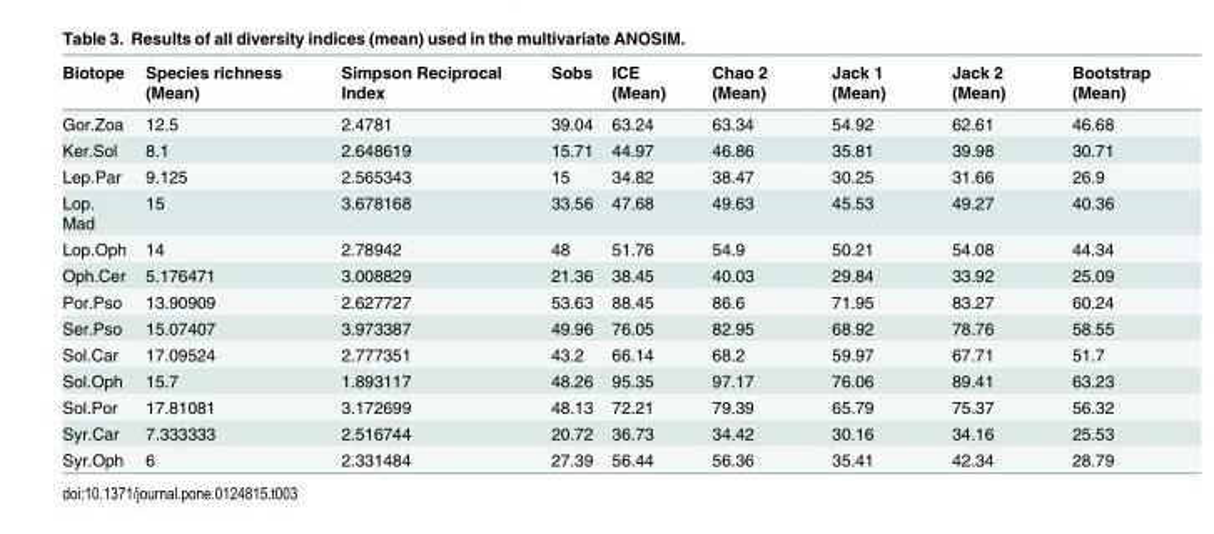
<table><thead><tr><td>Biotope</td><td>Species richness (Mean)</td><td>Simpson Reciprocal Index</td><td>Sobs</td><td>ICE (Mean)</td><td>Chao 2 (Mean)</td><td>Jack 1 (Mean)</td><td>Jack 2 (Mean)</td><td>Bootstrap (Mean)</td></tr></thead><tbody><tr><td>Gor.Zoa</td><td>12.5</td><td>2.4781</td><td>39.04</td><td>63.24</td><td>63.34</td><td>54.92</td><td>62.61</td><td>46.68</td></tr><tr><td>Ker.Sol</td><td>8.1</td><td>2.648619</td><td>15.71</td><td>44.97</td><td>46.86</td><td>35.81</td><td>39.98</td><td>30.71</td></tr><tr><td>Lep.Par</td><td>9.125</td><td>2.565343</td><td>15</td><td>34.82</td><td>38.47</td><td>30.25</td><td>31.66</td><td>26.9</td></tr><tr><td>Lop. Mad</td><td>15</td><td>3.678168</td><td>33.56</td><td>47.68</td><td>49.63</td><td>45.53</td><td>49.27</td><td>40.36</td></tr><tr><td>Lop.Oph</td><td>14</td><td>2.78942</td><td>48</td><td>51.76</td><td>54.9</td><td>50.21</td><td>54.08</td><td>44.34</td></tr><tr><td>Oph.Cer</td><td>5.176471</td><td>3.008829</td><td>21.36</td><td>38.45</td><td>40.03</td><td>29.84</td><td>33.92</td><td>25.09</td></tr><tr><td>Por.Pso</td><td>13.90909</td><td>2.627727</td><td>53.63</td><td>88.45</td><td>86.6</td><td>71.95</td><td>83.27</td><td>60.24</td></tr><tr><td>Ser.Pso</td><td>15.07407</td><td>3.973387</td><td>49.96</td><td>76.05</td><td>82.95</td><td>68.92</td><td>78.76</td><td>58.55</td></tr><tr><td>Sol.Car</td><td>17.09524</td><td>2.777351</td><td>43.2</td><td>66.14</td><td>68.2</td><td>59.97</td><td>67.71</td><td>51.7</td></tr><tr><td>Sol.Oph</td><td>15.7</td><td>1.893117</td><td>48.26</td><td>95.35</td><td>97.17</td><td>76.06</td><td>89.41</td><td>63.23</td></tr><tr><td>Sol.Por</td><td>17.81081</td><td>3.172699</td><td>48.13</td><td>72.21</td><td>79.39</td><td>65.79</td><td>75.37</td><td>56.32</td></tr><tr><td>Syr.Car</td><td>7.333333</td><td>2.516744</td><td>20.72</td><td>36.73</td><td>34.42</td><td>30.16</td><td>34.16</td><td>25.53</td></tr><tr><td>Syr.Oph</td><td>6</td><td>2.331484</td><td>27.39</td><td>56.44</td><td>56.36</td><td>35.41</td><td>42.34</td><td>28.79</td></tr></tbody></table>